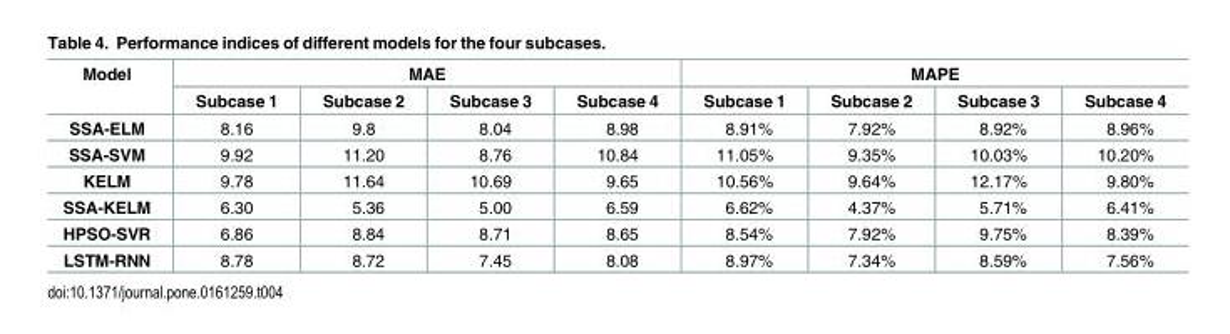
<table><thead><tr><td rowspan="2">Model</td><td colspan="4">MAE</td><td colspan="4">MAPE</td></tr><tr><td>Subcase 1</td><td>Subcase 2</td><td>Subcase 3</td><td>Subcase 4</td><td>Subcase 1</td><td>Subcase 2</td><td>Subcase 3</td><td>Subcase 4</td></tr></thead><tbody><tr><td>SSA-ELM</td><td>8.16</td><td>9.8</td><td>8.04</td><td>8.98</td><td>8.91%</td><td>7.92%</td><td>8.92%</td><td>8.96%</td></tr><tr><td>SSA-SVM</td><td>9.92</td><td>11.20</td><td>8.76</td><td>10.84</td><td>11.05%</td><td>9.35%</td><td>10.03%</td><td>10.20%</td></tr><tr><td>KELM</td><td>9.78</td><td>11.64</td><td>10.69</td><td>9.65</td><td>10.56%</td><td>9.64%</td><td>12.17%</td><td>9.80%</td></tr><tr><td>SSA-KELM</td><td>6.30</td><td>5.36</td><td>5.00</td><td>6.59</td><td>6.62%</td><td>4.37%</td><td>5.71%</td><td>6.41%</td></tr><tr><td>HPSO-SVR</td><td>6.86</td><td>8.84</td><td>8.71</td><td>8.65</td><td>8.54%</td><td>7.92%</td><td>9.75%</td><td>8.39%</td></tr><tr><td>LSTM-RNN</td><td>8.78</td><td>8.72</td><td>7.45</td><td>8.08</td><td>8.97%</td><td>7.34%</td><td>8.59%</td><td>7.56%</td></tr></tbody></table>